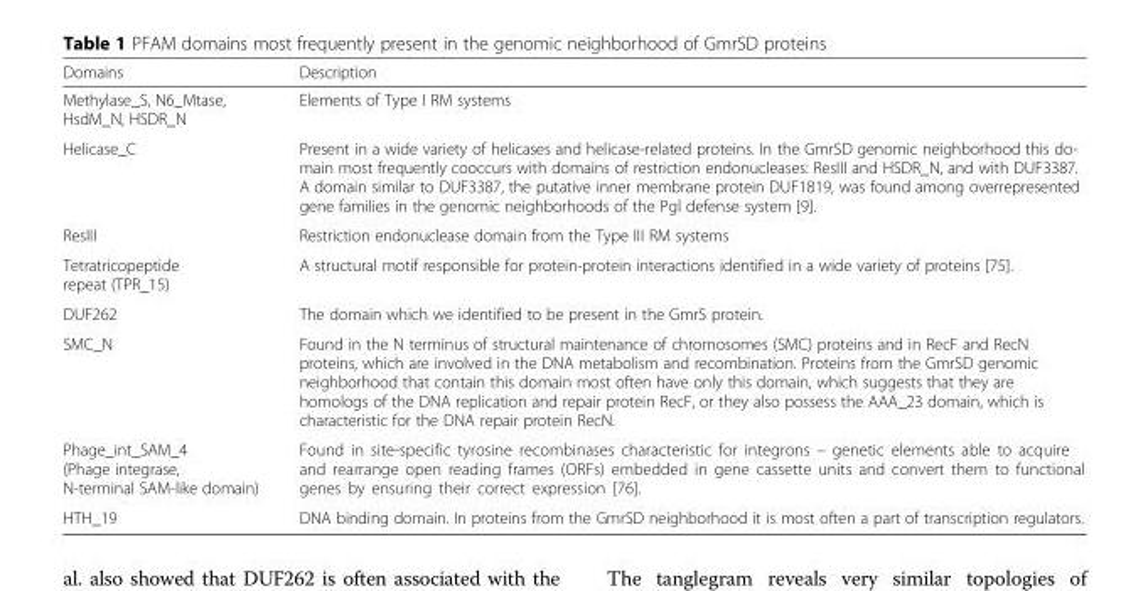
<table><thead><tr><td>Domains</td><td>Description</td></tr></thead><tbody><tr><td>Methylase_S, N6_Mtase, HsdM_N, HSDR_N</td><td>Elements of Type I RM systems</td></tr><tr><td>Helicase_C</td><td>Present in a wide variety of helicases and helicase-related proteins. In the GmrSD genomic neighborhood this do- main most frequently cooccurs with domains of restriction endonucleases: ResIII and HSDR_N, and with DUF3387. A domain similar to DUF3387, the putative inner membrane protein DUF1819, was found among overrepresented gene families in the genomic neighborhoods of the Pgl defense system [9].</td></tr><tr><td>ResIII</td><td>Restriction endonuclease domain from the Type III RM systems</td></tr><tr><td>Tetratricopeptide repeat (TPR_15)</td><td>A structural motif responsible for protein-protein interactions identified in a wide variety of proteins [75].</td></tr><tr><td>DUF262</td><td>The domain which we identified to be present in the GmrS protein.</td></tr><tr><td>SMC_N</td><td>Found in the N terminus of structural maintenance of chromosomes (SMC) proteins and in RecF and RecN proteins, which are involved in the DNA metabolism and recombination. Proteins from the GmrSD genomic neighborhood that contain this domain most often have only this domain, which suggests that they are homologs of the DNA replication and repair protein RecF, or they also possess the AAA_23 domain, which is characteristic for the DNA repair protein RecN.</td></tr><tr><td>Phage_int_SAM_4 (Phage integrase, N-terminal SAM-like domain)</td><td>Found in site-specific tyrosine recombinases characteristic for integrons – genetic elements able to acquire and rearrange open reading frames (ORFs) embedded in gene cassette units and convert them to functional genes by ensuring their correct expression [76].</td></tr><tr><td>HTH_19</td><td>DNA binding domain. In proteins from the GmrSD neighborhood it is most often a part of transcription regulators.</td></tr></tbody></table>